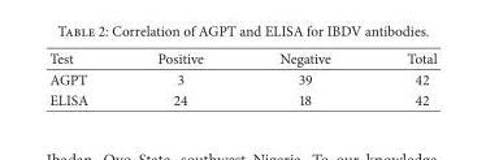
<table><thead><tr><td>Test</td><td>Positive</td><td>Negative</td><td>Total</td></tr></thead><tbody><tr><td>AGPT</td><td>3</td><td>39</td><td>42</td></tr><tr><td>ELISA</td><td>24</td><td>18</td><td>42</td></tr></tbody></table>